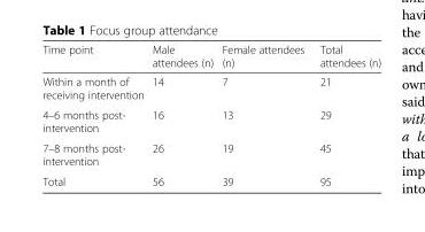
<table><thead><tr><td>Time point</td><td>Male attendees (n)</td><td>Female attendees (n)</td><td>Total attendees (n)</td></tr></thead><tbody><tr><td>Within a month of receiving intervention</td><td>14</td><td>7</td><td>21</td></tr><tr><td>4–6 months post- intervention</td><td>16</td><td>13</td><td>29</td></tr><tr><td>7–8 months post- intervention</td><td>26</td><td>19</td><td>45</td></tr><tr><td>Total</td><td>56</td><td>39</td><td>95</td></tr></tbody></table>